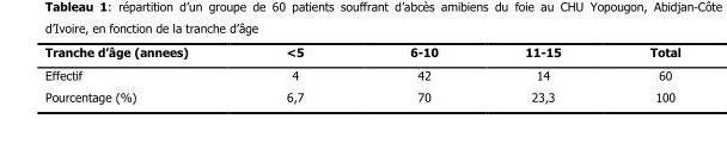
<table><thead><tr><td>Tranche d’âge (annees)</td><td>&lt;5</td><td>6-10</td><td>11-15</td><td>Total</td></tr></thead><tbody><tr><td>Effectif</td><td>4</td><td>42</td><td>14</td><td>60</td></tr><tr><td>Pourcentage (%)</td><td>6,7</td><td>70</td><td>23,3</td><td>100</td></tr></tbody></table>